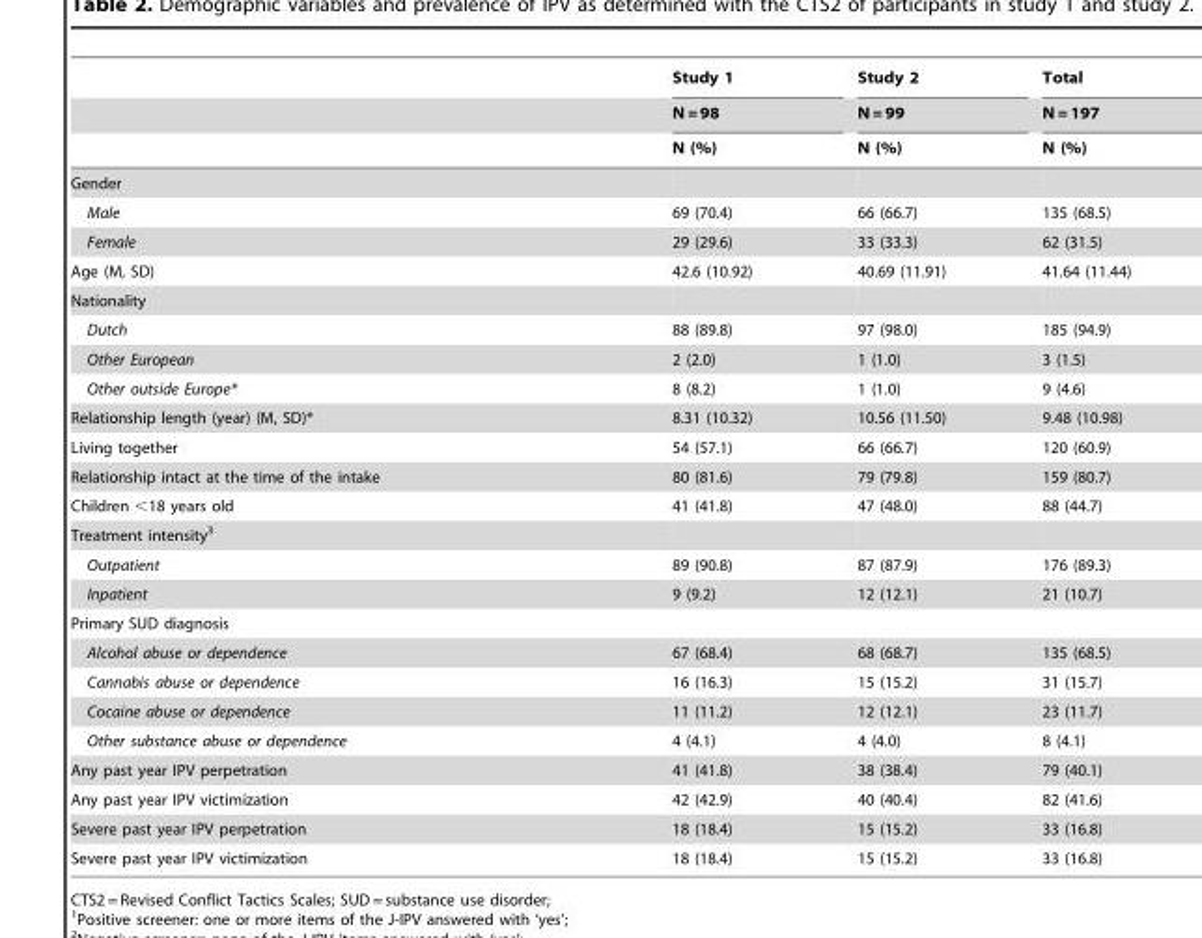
<table><thead><tr><td rowspan="3"></td><td rowspan="3">Study 1 N = 98 N (%)</td><td rowspan="3">Study 2 N = 99 N (%)</td><td rowspan="3">Total N = 197 N (%)</td></tr><tr></tr><tr></tr></thead><tbody><tr><td colspan="4">Gender</td></tr><tr><td>Male</td><td>69 (70.4)</td><td>66 (66.7)</td><td>135 (68.5)</td></tr><tr><td>Female</td><td>29 (29.6)</td><td>33 (33.3)</td><td>62 (31.5)</td></tr><tr><td>Age (M, SD)</td><td>42.6 (10.92)</td><td>40.69 (11.91)</td><td>41.64 (11.44)</td></tr><tr><td colspan="4">Nationality</td></tr><tr><td>Dutch</td><td>88 (89.8)</td><td>97 (98.0)</td><td>185 (94.9)</td></tr><tr><td>Other European</td><td>2 (2.0)</td><td>1 (1.0)</td><td>3 (1.5)</td></tr><tr><td>Other outside Europe*</td><td>8 (8.2)</td><td>1 (1.0)</td><td>9 (4.6)</td></tr><tr><td>Relationship length (year) (M, SD)*</td><td>8.31 (10.32)</td><td>10.56 (11.50)</td><td>9.48 (10.98)</td></tr><tr><td>Living together</td><td>54 (57.1)</td><td>66 (66.7)</td><td>120 (60.9)</td></tr><tr><td>Relationship intact at the time of the intake</td><td>80 (81.6)</td><td>79 (79.8)</td><td>159 (80.7)</td></tr><tr><td>Children &lt;18 years old</td><td>41 (41.8)</td><td>47 (48.0)</td><td>88 (44.7)</td></tr><tr><td colspan="4">Treatment intensity<sup>3</sup></td></tr><tr><td>Outpatient</td><td>89 (90.8)</td><td>87 (87.9)</td><td>176 (89.3)</td></tr><tr><td>Inpatient</td><td>9 (9.2)</td><td>12 (12.1)</td><td>21 (10.7)</td></tr><tr><td colspan="4">Primary SUD diagnosis</td></tr><tr><td>Alcohol abuse or dependence</td><td>67 (68.4)</td><td>68 (68.7)</td><td>135 (68.5)</td></tr><tr><td>Cannabis abuse or dependence</td><td>16 (16.3)</td><td>15 (15.2)</td><td>31 (15.7)</td></tr><tr><td>Cocaine abuse or dependence</td><td>11 (11.2)</td><td>12 (12.1)</td><td>23 (11.7)</td></tr><tr><td>Other substance abuse or dependence</td><td>4 (4.1)</td><td>4 (4.0)</td><td>8 (4.1)</td></tr><tr><td>Any past year IPV perpetration</td><td>41 (41.8)</td><td>38 (38.4)</td><td>79 (40.1)</td></tr><tr><td>Any past year IPV victimization</td><td>42 (42.9)</td><td>40 (40.4)</td><td>82 (41.6)</td></tr><tr><td>Severe past year IPV perpetration</td><td>18 (18.4)</td><td>15 (15.2)</td><td>33 (16.8)</td></tr><tr><td>Severe past year IPV victimization</td><td>18 (18.4)</td><td>15 (15.2)</td><td>33 (16.8)</td></tr></tbody></table>